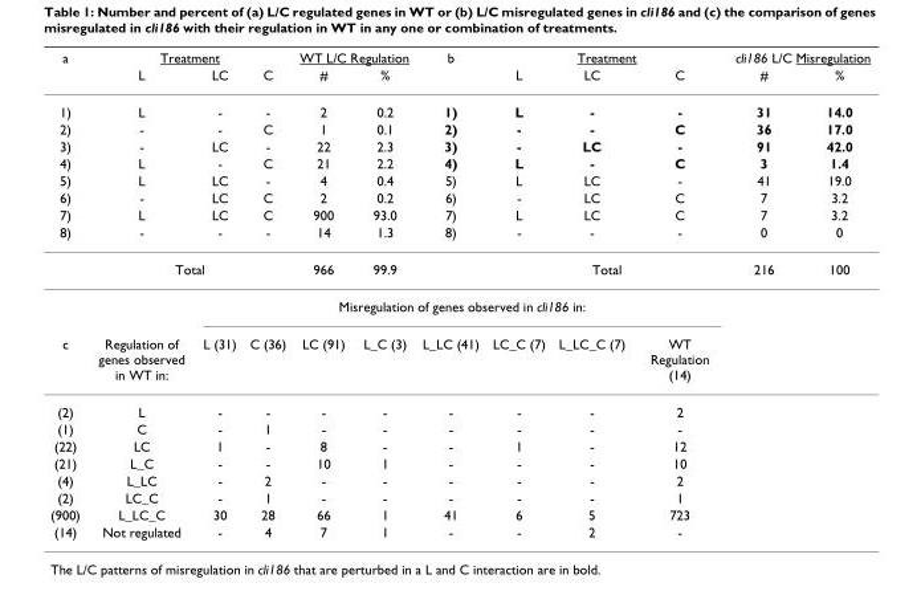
<table><thead><tr><td rowspan="2">a</td><td colspan="3">Treatment</td><td colspan="2">WT L/C Regulation</td><td rowspan="2">b</td><td colspan="3">Treatment</td><td colspan="2">cli186 L/C Misregulation</td></tr><tr><td>L</td><td>LC</td><td>C</td><td>#</td><td>%</td><td>L</td><td>LC</td><td>C</td><td>#</td><td>%</td></tr></thead><tbody><tr><td>1)</td><td>L</td><td>-</td><td>-</td><td>2</td><td>0.2</td><td>1)</td><td>L</td><td>-</td><td>-</td><td>31</td><td>14.0</td></tr><tr><td>2)</td><td>-</td><td>-</td><td>C</td><td>1</td><td>0.1</td><td>2)</td><td>-</td><td>-</td><td>C</td><td>36</td><td>17.0</td></tr><tr><td>3)</td><td>-</td><td>LC</td><td>-</td><td>22</td><td>2.3</td><td>3)</td><td>-</td><td>LC</td><td>-</td><td>91</td><td>42.0</td></tr><tr><td>4)</td><td>L</td><td>-</td><td>C</td><td>21</td><td>2.2</td><td>4)</td><td>L</td><td>-</td><td>C</td><td>3</td><td>1.4</td></tr><tr><td>5)</td><td>L</td><td>LC</td><td>-</td><td>4</td><td>0.4</td><td>5)</td><td>L</td><td>LC</td><td>-</td><td>41</td><td>19.0</td></tr><tr><td>6)</td><td>-</td><td>LC</td><td>C</td><td>2</td><td>0.2</td><td>6)</td><td>-</td><td>LC</td><td>C</td><td>7</td><td>3.2</td></tr><tr><td>7)</td><td>L</td><td>LC</td><td>C</td><td>900</td><td>93.0</td><td>7)</td><td>L</td><td>LC</td><td>C</td><td>7</td><td>3.2</td></tr><tr><td rowspan="3">8)</td><td>-</td><td>-</td><td>-</td><td>14</td><td>1.3</td><td>8)</td><td>-</td><td>-</td><td>-</td><td>0</td><td>0</td></tr><tr><td colspan="3">Total</td><td>966</td><td>99.9</td><td></td><td colspan="3">Total</td><td>216</td><td>100</td></tr><tr><td></td><td colspan="8">Misregulation of genes observed in cli186 in:</td><td></td><td></td></tr><tr><td>c</td><td>Regulation of genes observed in WT in:</td><td>L (31)</td><td>C (36)</td><td>LC (91)</td><td>L_C (3)</td><td>L_LC (41)</td><td>LC_C (7)</td><td>L_LC_C (7)</td><td>WT Regulation (14)</td><td></td><td></td></tr><tr><td>(2)</td><td>L</td><td>-</td><td>-</td><td>-</td><td>-</td><td>-</td><td>-</td><td>-</td><td>2</td><td></td><td></td></tr><tr><td>(1)</td><td>C</td><td>-</td><td>1</td><td>-</td><td>-</td><td>-</td><td>-</td><td>-</td><td>-</td><td></td><td></td></tr><tr><td>(22)</td><td>LC</td><td>1</td><td>-</td><td>8</td><td>-</td><td>-</td><td>1</td><td>-</td><td>12</td><td></td><td></td></tr><tr><td>(21)</td><td>L_C</td><td>-</td><td>-</td><td>10</td><td>1</td><td>-</td><td>-</td><td>-</td><td>10</td><td></td><td></td></tr><tr><td>(4)</td><td>L_LC</td><td>-</td><td>2</td><td>-</td><td>-</td><td>-</td><td>-</td><td>-</td><td>2</td><td></td><td></td></tr><tr><td>(2)</td><td>LC_C</td><td>-</td><td>1</td><td>-</td><td>-</td><td>-</td><td>-</td><td>-</td><td>1</td><td></td><td></td></tr><tr><td>(900)</td><td>L_LC_C</td><td>30</td><td>28</td><td>66</td><td>1</td><td>41</td><td>6</td><td>5</td><td>723</td><td></td><td></td></tr><tr><td>(14)</td><td>Not regulated</td><td>-</td><td>4</td><td>7</td><td>1</td><td>-</td><td>-</td><td>2</td><td>-</td><td></td><td></td></tr></tbody></table>